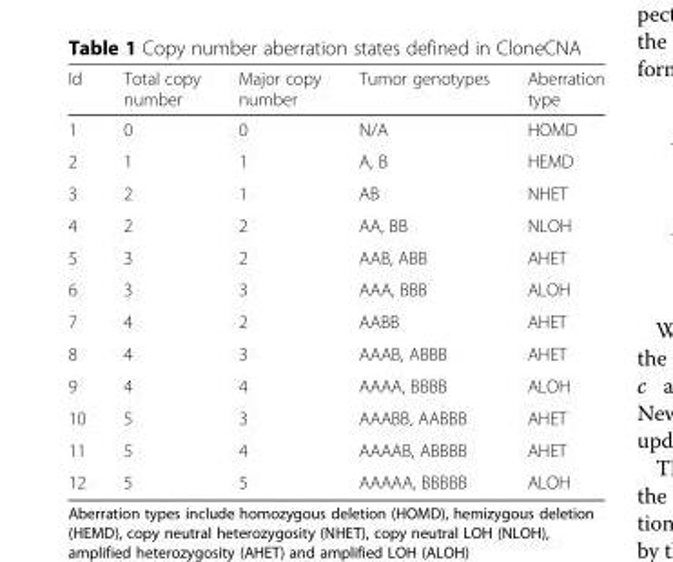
<table><thead><tr><td>Id</td><td>Total copy number</td><td>Major copy number</td><td>Tumor genotypes</td><td>Aberration type</td></tr></thead><tbody><tr><td>1</td><td>0</td><td>0</td><td>N/A</td><td>HOMD</td></tr><tr><td>2</td><td>1</td><td>1</td><td>A, B</td><td>HEMD</td></tr><tr><td>3</td><td>2</td><td>1</td><td>AB</td><td>NHET</td></tr><tr><td>4</td><td>2</td><td>2</td><td>AA, BB</td><td>NLOH</td></tr><tr><td>5</td><td>3</td><td>2</td><td>AAB, ABB</td><td>AHET</td></tr><tr><td>6</td><td>3</td><td>3</td><td>AAA, BBB</td><td>ALOH</td></tr><tr><td>7</td><td>4</td><td>2</td><td>AABB</td><td>AHET</td></tr><tr><td>8</td><td>4</td><td>3</td><td>AAAB, ABBB</td><td>AHET</td></tr><tr><td>9</td><td>4</td><td>4</td><td>AAAA, BBBB</td><td>ALOH</td></tr><tr><td>10</td><td>5</td><td>3</td><td>AAABB, AABBB</td><td>AHET</td></tr><tr><td>11</td><td>5</td><td>4</td><td>AAAAB, ABBBB</td><td>AHET</td></tr><tr><td>12</td><td>5</td><td>5</td><td>AAAAA, BBBBB</td><td>ALOH</td></tr></tbody></table>